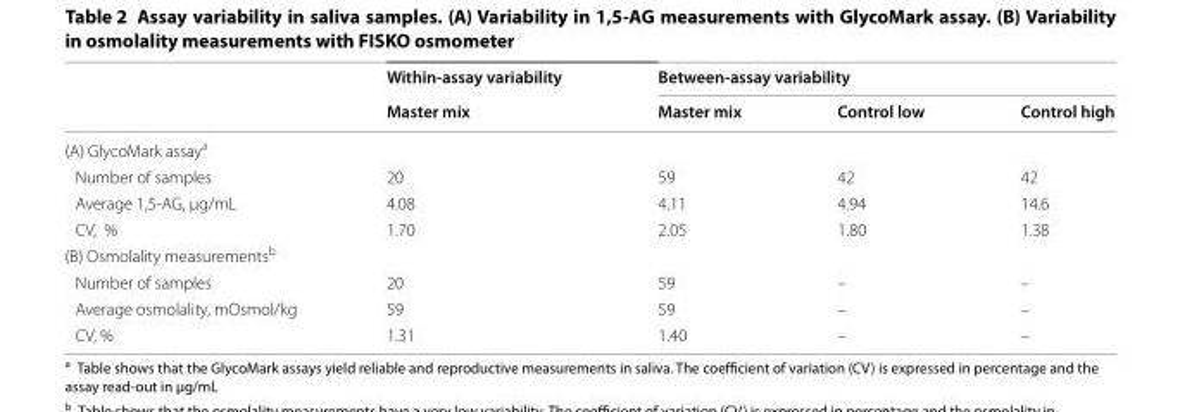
<table><thead><tr><td rowspan="2"></td><td rowspan="2">Within‑assay variability Master mix</td><td colspan="3">Between‑assay variability</td></tr><tr><td>Master mix</td><td>Control low</td><td>Control high</td></tr></thead><tbody><tr><td colspan="5">(A) GlycoMark assay<sup>a</sup></td></tr><tr><td>Number of samples</td><td>20</td><td>59</td><td>42</td><td>42</td></tr><tr><td>Average 1,5‑AG, µg/mL</td><td>4.08</td><td>4.11</td><td>4.94</td><td>14.6</td></tr><tr><td>CV, %</td><td>1.70</td><td>2.05</td><td>1.80</td><td>1.38</td></tr><tr><td colspan="5">(B) Osmolality measurements<sup>b</sup></td></tr><tr><td>Number of samples</td><td>20</td><td>59</td><td>–</td><td>–</td></tr><tr><td>Average osmolality, mOsmol/kg</td><td>59</td><td>59</td><td>–</td><td>–</td></tr><tr><td>CV, %</td><td>1.31</td><td>1.40</td><td>–</td><td>–</td></tr></tbody></table>